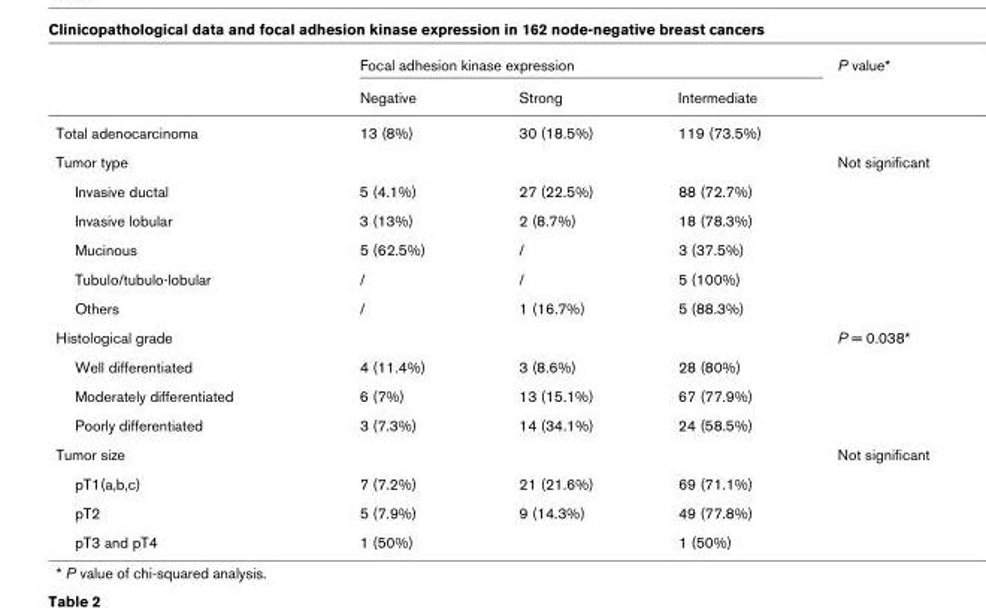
<table><thead><tr><td rowspan="2"></td><td colspan="3">Focal adhesion kinase expression</td><td rowspan="2">P value*</td></tr><tr><td>Negative</td><td>Strong</td><td>Intermediate</td></tr></thead><tbody><tr><td>Total adenocarcinoma</td><td>13 (8%)</td><td>30 (18.5%)</td><td>119 (73.5%)</td><td></td></tr><tr><td>Tumor type</td><td></td><td></td><td></td><td>Not significant</td></tr><tr><td>Invasive ductal</td><td>5 (4.1%)</td><td>27 (22.5%)</td><td>88 (72.7%)</td><td></td></tr><tr><td>Invasive lobular</td><td>3 (13%)</td><td>2 (8.7%)</td><td>18 (78.3%)</td><td></td></tr><tr><td>Mucinous</td><td>5 (62.5%)</td><td>/</td><td>3 (37.5%)</td><td></td></tr><tr><td>Tubulo/tubulo-lobular</td><td>/</td><td>/</td><td>5 (100%)</td><td></td></tr><tr><td>Others</td><td>/</td><td>1 (16.7%)</td><td>5 (88.3%)</td><td></td></tr><tr><td>Histological grade</td><td></td><td></td><td></td><td>P = 0.038*</td></tr><tr><td>Well differentiated</td><td>4 (11.4%)</td><td>3 (8.6%)</td><td>28 (80%)</td><td></td></tr><tr><td>Moderately differentiated</td><td>6 (7%)</td><td>13 (15.1%)</td><td>67 (77.9%)</td><td></td></tr><tr><td>Poorly differentiated</td><td>3 (7.3%)</td><td>14 (34.1%)</td><td>24 (58.5%)</td><td></td></tr><tr><td>Tumor size</td><td></td><td></td><td></td><td>Not significant</td></tr><tr><td>pT1(a,b,c)</td><td>7 (7.2%)</td><td>21 (21.6%)</td><td>69 (71.1%)</td><td></td></tr><tr><td>pT2</td><td>5 (7.9%)</td><td>9 (14.3%)</td><td>49 (77.8%)</td><td></td></tr><tr><td>pT3 and pT4</td><td>1 (50%)</td><td></td><td>1 (50%)</td><td></td></tr></tbody></table>